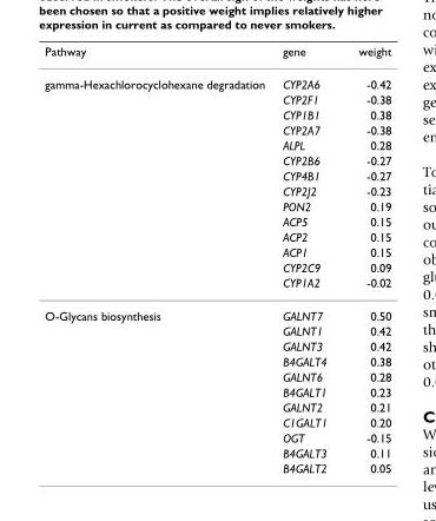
<table><thead><tr><td>Pathway</td><td>gene</td><td>weight</td></tr></thead><tbody><tr><td rowspan="14">gamma-Hexachlorocyclohexane degradation</td><td>CYP2A6</td><td>-0.42</td></tr><tr><td>CYP2F1</td><td>-0.38</td></tr><tr><td>CYP1B1</td><td>0.38</td></tr><tr><td>CYP2A7</td><td>-0.38</td></tr><tr><td>ALPL</td><td>0.28</td></tr><tr><td>CYP2B6</td><td>-0.27</td></tr><tr><td>CYP4B1</td><td>-0.27</td></tr><tr><td>CYP2J2</td><td>-0.23</td></tr><tr><td>PON2</td><td>0.19</td></tr><tr><td>ACP5</td><td>0.15</td></tr><tr><td>ACP2</td><td>0.15</td></tr><tr><td>ACP1</td><td>0.15</td></tr><tr><td>CYP2C9</td><td>0.09</td></tr><tr><td>CYP1A2</td><td>-0.02</td></tr><tr><td rowspan="11">O-Glycans biosynthesis</td><td>GALNT7</td><td>0.50</td></tr><tr><td>GALNT1</td><td>0.42</td></tr><tr><td>GALNT3</td><td>0.42</td></tr><tr><td>B4GALT4</td><td>0.38</td></tr><tr><td>GALNT6</td><td>0.28</td></tr><tr><td>B4GALT1</td><td>0.23</td></tr><tr><td>GALNT2</td><td>0.21</td></tr><tr><td>C1GALT1</td><td>0.20</td></tr><tr><td>OGT</td><td>-0.15</td></tr><tr><td>B4GALT3</td><td>0.11</td></tr><tr><td>B4GALT2</td><td>0.05</td></tr></tbody></table>